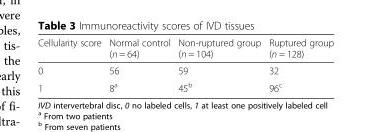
<table><thead><tr><td>Cellularity score</td><td>Normal control (n = 64)</td><td>Non-ruptured group (n = 104)</td><td>Ruptured group (n = 128)</td></tr></thead><tbody><tr><td>0</td><td>56</td><td>59</td><td>32</td></tr><tr><td>1</td><td>8<sup>a</sup></td><td>45<sup>b</sup></td><td>96<sup>c</sup></td></tr></tbody></table>